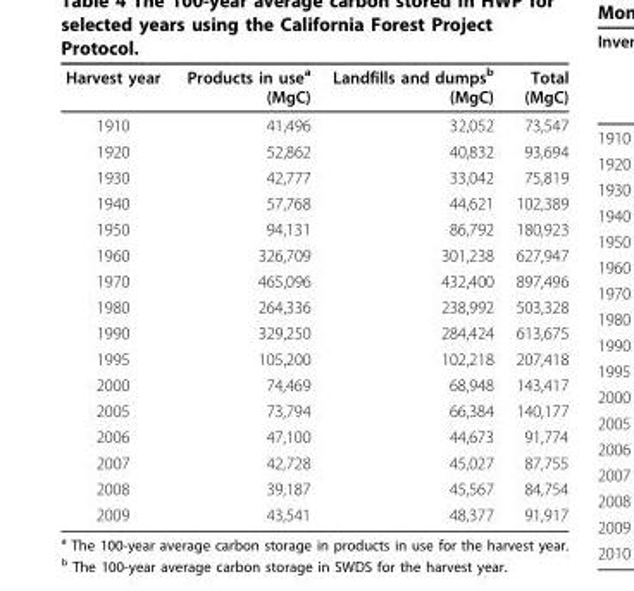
<table><thead><tr><td>Harvest year</td><td>Products in use<sup>a</sup> (MgC)</td><td>Landfills and dumps<sup>b</sup> (MgC)</td><td>Total (MgC)</td></tr></thead><tbody><tr><td>1910</td><td>41,496</td><td>32,052</td><td>73,547</td></tr><tr><td>1920</td><td>52,862</td><td>40,832</td><td>93,694</td></tr><tr><td>1930</td><td>42,777</td><td>33,042</td><td>75,819</td></tr><tr><td>1940</td><td>57,768</td><td>44,621</td><td>102,389</td></tr><tr><td>1950</td><td>94,131</td><td>86,792</td><td>180,923</td></tr><tr><td>1960</td><td>326,709</td><td>301,238</td><td>627,947</td></tr><tr><td>1970</td><td>465,096</td><td>432,400</td><td>897,496</td></tr><tr><td>1980</td><td>264,336</td><td>238,992</td><td>503,328</td></tr><tr><td>1990</td><td>329,250</td><td>284,424</td><td>613,675</td></tr><tr><td>1995</td><td>105,200</td><td>102,218</td><td>207,418</td></tr><tr><td>2000</td><td>74,469</td><td>68,948</td><td>143,417</td></tr><tr><td>2005</td><td>73,794</td><td>66,384</td><td>140,177</td></tr><tr><td>2006</td><td>47,100</td><td>44,673</td><td>91,774</td></tr><tr><td>2007</td><td>42,728</td><td>45,027</td><td>87,755</td></tr><tr><td>2008</td><td>39,187</td><td>45,567</td><td>84,754</td></tr><tr><td>2009</td><td>43,541</td><td>48,377</td><td>91,917</td></tr></tbody></table>